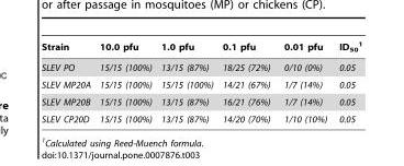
<table><thead><tr><td>Strain</td><td>10.0 pfu</td><td>1.0 pfu</td><td>0.1 pfu</td><td>0.01 pfu</td><td>ID<sub>50</sub> 1</td></tr></thead><tbody><tr><td>SLEV PO</td><td>15/15 (100%)</td><td>13/15 (87%)</td><td>18/25 (72%)</td><td>0/10 (0%)</td><td>0.05</td></tr><tr><td>SLEV MP20A</td><td>15/15 (100%)</td><td>15/15 (100%)</td><td>14/21 (67%)</td><td>1/7 (14%)</td><td>0.05</td></tr><tr><td>SLEV MP20B</td><td>15/15 (100%)</td><td>13/15 (87%)</td><td>16/21 (76%)</td><td>1/7 (14%)</td><td>0.05</td></tr><tr><td>SLEV CP20D</td><td>15/15 (100%)</td><td>13/15 (87%)</td><td>14/20 (70%)</td><td>1/10 (10%)</td><td>0.05</td></tr></tbody></table>